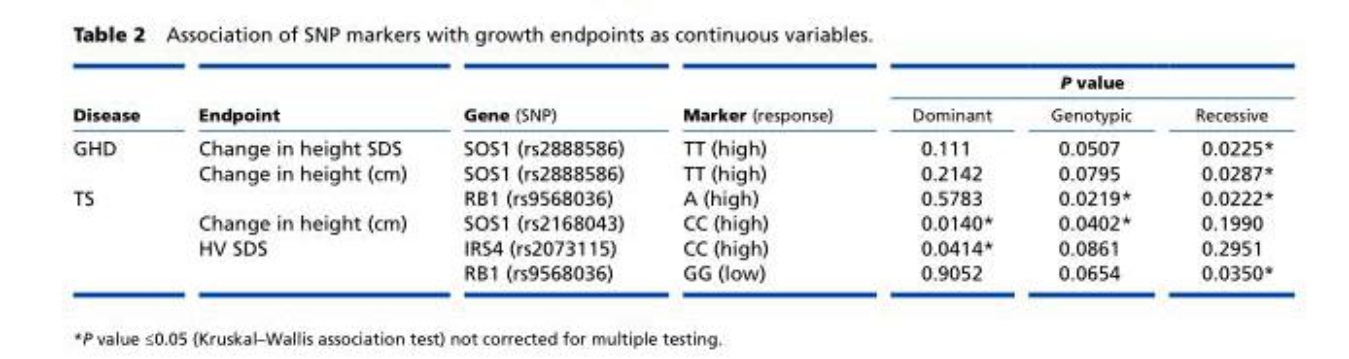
<table><thead><tr><td rowspan="2">Disease</td><td rowspan="2">Endpoint</td><td rowspan="2">Gene (SNP)</td><td rowspan="2">Marker (response)</td><td colspan="3">P value</td></tr><tr><td>Dominant</td><td>Genotypic</td><td>Recessive</td></tr></thead><tbody><tr><td rowspan="2">GHD</td><td>Change in height SDS</td><td>SOS1 (rs2888586)</td><td>TT (high)</td><td>0.111</td><td>0.0507</td><td>0.0225*</td></tr><tr><td>Change in height (cm)</td><td>SOS1 (rs2888586)</td><td>TT (high)</td><td>0.2142</td><td>0.0795</td><td>0.0287*</td></tr><tr><td rowspan="4">TS</td><td></td><td>RB1 (rs9568036)</td><td>A (high)</td><td>0.5783</td><td>0.0219*</td><td>0.0222*</td></tr><tr><td>Change in height (cm)</td><td>SOS1 (rs2168043)</td><td>CC (high)</td><td>0.0140*</td><td>0.0402*</td><td>0.1990</td></tr><tr><td>HV SDS</td><td>IRS4 (rs2073115)</td><td>CC (high)</td><td>0.0414*</td><td>0.0861</td><td>0.2951</td></tr><tr><td></td><td>RB1 (rs9568036)</td><td>GG (low)</td><td>0.9052</td><td>0.0654</td><td>0.0350*</td></tr></tbody></table>